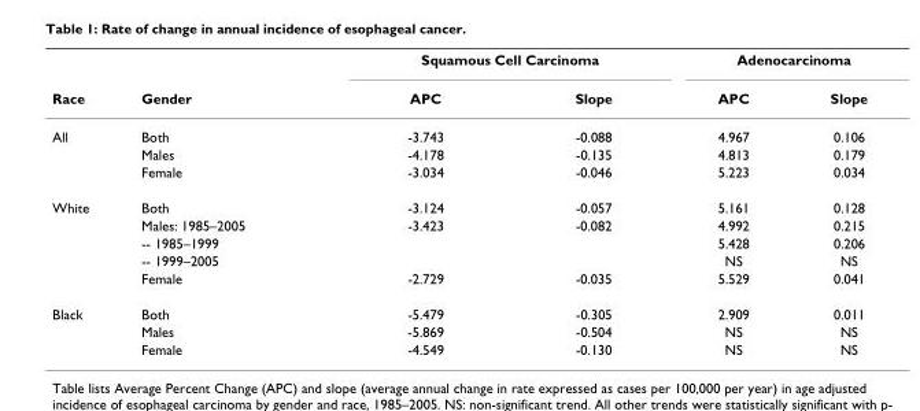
<table><thead><tr><td rowspan="2">Race</td><td rowspan="2">Gender</td><td colspan="2">Squamous Cell Carcinoma</td><td colspan="2">Adenocarcinoma</td></tr><tr><td>APC</td><td>Slope</td><td>APC</td><td>Slope</td></tr></thead><tbody><tr><td rowspan="3">All</td><td>Both</td><td>-3.743</td><td>-0.088</td><td>4.967</td><td>0.106</td></tr><tr><td>Males</td><td>-4.178</td><td>-0.135</td><td>4.813</td><td>0.179</td></tr><tr><td>Female</td><td>-3.034</td><td>-0.046</td><td>5.223</td><td>0.034</td></tr><tr><td rowspan="5">White</td><td>Both</td><td>-3.124</td><td>-0.057</td><td>5.161</td><td>0.128</td></tr><tr><td>Males: 1985–2005</td><td>-3.423</td><td>-0.082</td><td>4.992</td><td>0.215</td></tr><tr><td>-- 1985–1999</td><td></td><td></td><td>5.428</td><td>0.206</td></tr><tr><td>-- 1999–2005</td><td></td><td></td><td>NS</td><td>NS</td></tr><tr><td>Female</td><td>-2.729</td><td>-0.035</td><td>5.529</td><td>0.041</td></tr><tr><td rowspan="3">Black</td><td>Both</td><td>-5.479</td><td>-0.305</td><td>2.909</td><td>0.011</td></tr><tr><td>Males</td><td>-5.869</td><td>-0.504</td><td>NS</td><td>NS</td></tr><tr><td>Female</td><td>-4.549</td><td>-0.130</td><td>NS</td><td>NS</td></tr></tbody></table>